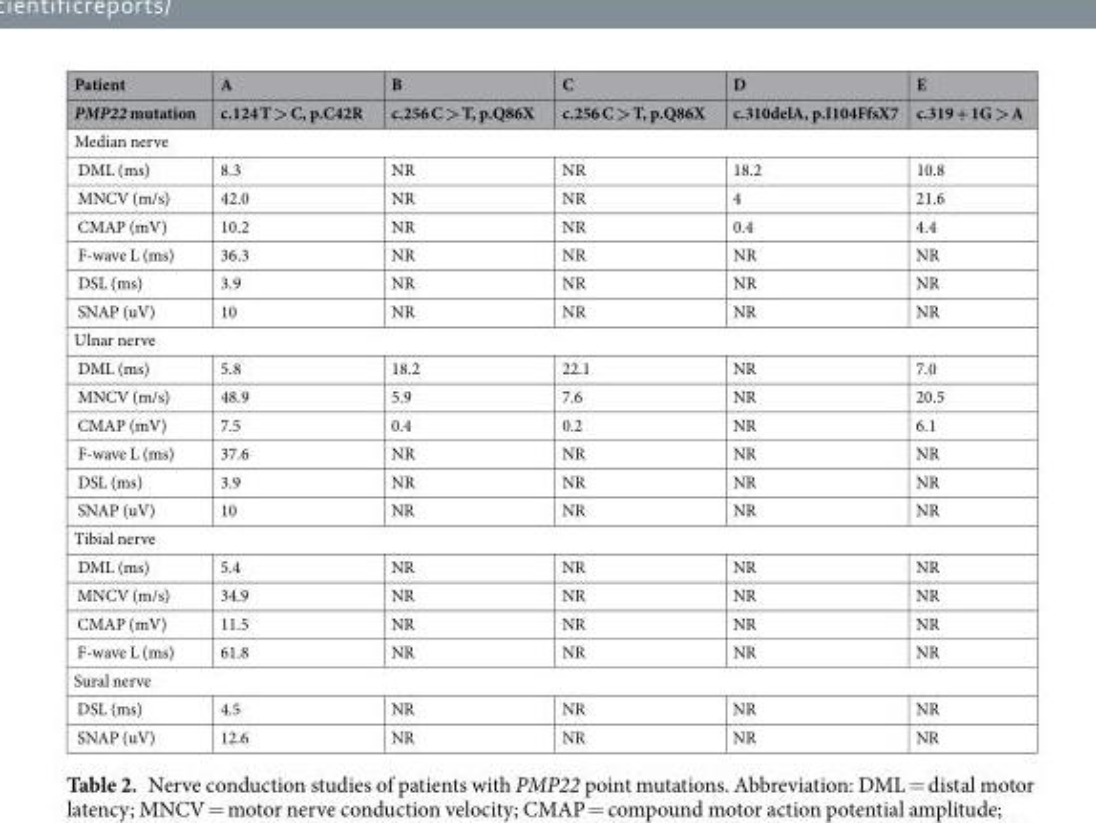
<table><thead><tr><td rowspan="2">Patient PMP22 mutation</td><td rowspan="2">A c.124 T &gt; C, p.C42R</td><td rowspan="2">B c.256 C &gt; T, p.Q86X</td><td rowspan="2">C c.256 C &gt; T, p.Q86X</td><td rowspan="2">D c.310delA, p.I104FfsX7</td><td rowspan="2">E c.319 + 1G &gt; A</td></tr><tr></tr></thead><tbody><tr><td colspan="6">Median nerve</td></tr><tr><td>DML (ms)</td><td>8.3</td><td>NR</td><td>NR</td><td>18.2</td><td>10.8</td></tr><tr><td>MNCV (m/s)</td><td>42.0</td><td>NR</td><td>NR</td><td>4</td><td>21.6</td></tr><tr><td>CMAP (mV)</td><td>10.2</td><td>NR</td><td>NR</td><td>0.4</td><td>4.4</td></tr><tr><td>F-wave L (ms)</td><td>36.3</td><td>NR</td><td>NR</td><td>NR</td><td>NR</td></tr><tr><td>DSL (ms)</td><td>3.9</td><td>NR</td><td>NR</td><td>NR</td><td>NR</td></tr><tr><td>SNAP (uV)</td><td>10</td><td>NR</td><td>NR</td><td>NR</td><td>NR</td></tr><tr><td colspan="6">Ulnar nerve</td></tr><tr><td>DML (ms)</td><td>5.8</td><td>18.2</td><td>22.1</td><td>NR</td><td>7.0</td></tr><tr><td>MNCV (m/s)</td><td>48.9</td><td>5.9</td><td>7.6</td><td>NR</td><td>20.5</td></tr><tr><td>CMAP (mV)</td><td>7.5</td><td>0.4</td><td>0.2</td><td>NR</td><td>6.1</td></tr><tr><td>F-wave L (ms)</td><td>37.6</td><td>NR</td><td>NR</td><td>NR</td><td>NR</td></tr><tr><td>DSL (ms)</td><td>3.9</td><td>NR</td><td>NR</td><td>NR</td><td>NR</td></tr><tr><td>SNAP (uV)</td><td>10</td><td>NR</td><td>NR</td><td>NR</td><td>NR</td></tr><tr><td colspan="6">Tibial nerve</td></tr><tr><td>DML (ms)</td><td>5.4</td><td>NR</td><td>NR</td><td>NR</td><td>NR</td></tr><tr><td>MNCV (m/s)</td><td>34.9</td><td>NR</td><td>NR</td><td>NR</td><td>NR</td></tr><tr><td>CMAP (mV)</td><td>11.5</td><td>NR</td><td>NR</td><td>NR</td><td>NR</td></tr><tr><td>F-wave L (ms)</td><td>61.8</td><td>NR</td><td>NR</td><td>NR</td><td>NR</td></tr><tr><td colspan="6">Sural nerve</td></tr><tr><td>DSL (ms)</td><td>4.5</td><td>NR</td><td>NR</td><td>NR</td><td>NR</td></tr><tr><td>SNAP (uV)</td><td>12.6</td><td>NR</td><td>NR</td><td>NR</td><td>NR</td></tr></tbody></table>